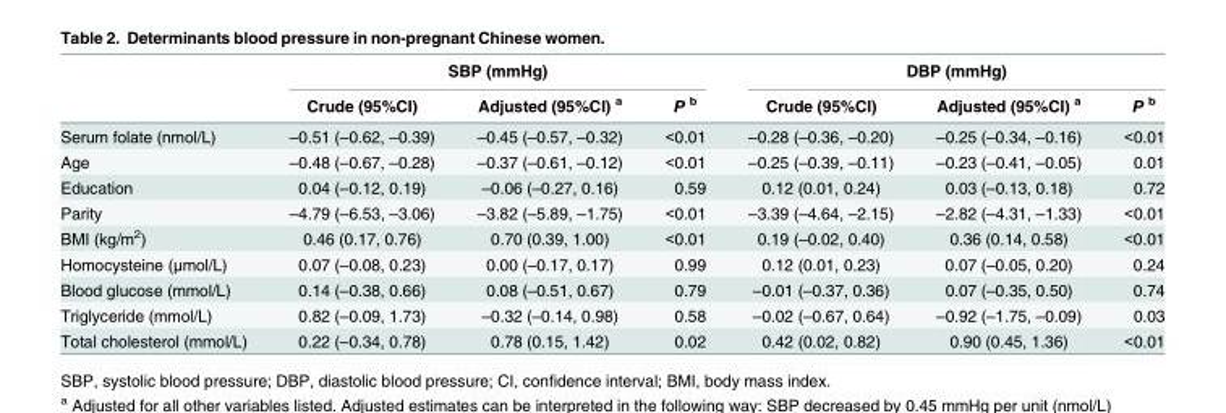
<table><thead><tr><td rowspan="2"></td><td colspan="3">SBP (mmHg)</td><td colspan="3">DBP (mmHg)</td></tr><tr><td>Crude (95%CI)</td><td>Adjusted (95%CI) <sup>a</sup></td><td>P <sup>b</sup></td><td>Crude (95%CI)</td><td>Adjusted (95%CI) <sup>a</sup></td><td>P <sup>b</sup></td></tr></thead><tbody><tr><td>Serum folate (nmol/L)</td><td>–0.51 (–0.62, –0.39)</td><td>–0.45 (–0.57, –0.32)</td><td>&lt;0.01</td><td>–0.28 (–0.36, –0.20)</td><td>–0.25 (–0.34, –0.16)</td><td>&lt;0.01</td></tr><tr><td>Age</td><td>–0.48 (–0.67, –0.28)</td><td>–0.37 (–0.61, –0.12)</td><td>&lt;0.01</td><td>–0.25 (–0.39, –0.11)</td><td>–0.23 (–0.41, –0.05)</td><td>0.01</td></tr><tr><td>Education</td><td>0.04 (–0.12, 0.19)</td><td>–0.06 (–0.27, 0.16)</td><td>0.59</td><td>0.12 (0.01, 0.24)</td><td>0.03 (–0.13, 0.18)</td><td>0.72</td></tr><tr><td>Parity</td><td>–4.79 (–6.53, –3.06)</td><td>–3.82 (–5.89, –1.75)</td><td>&lt;0.01</td><td>–3.39 (–4.64, –2.15)</td><td>–2.82 (–4.31, –1.33)</td><td>&lt;0.01</td></tr><tr><td>BMI (kg/m<sup>2</sup>)</td><td>0.46 (0.17, 0.76)</td><td>0.70 (0.39, 1.00)</td><td>&lt;0.01</td><td>0.19 (–0.02, 0.40)</td><td>0.36 (0.14, 0.58)</td><td>&lt;0.01</td></tr><tr><td>Homocysteine (μmol/L)</td><td>0.07 (–0.08, 0.23)</td><td>0.00 (–0.17, 0.17)</td><td>0.99</td><td>0.12 (0.01, 0.23)</td><td>0.07 (–0.05, 0.20)</td><td>0.24</td></tr><tr><td>Blood glucose (mmol/L)</td><td>0.14 (–0.38, 0.66)</td><td>0.08 (–0.51, 0.67)</td><td>0.79</td><td>–0.01 (–0.37, 0.36)</td><td>0.07 (–0.35, 0.50)</td><td>0.74</td></tr><tr><td>Triglyceride (mmol/L)</td><td>0.82 (–0.09, 1.73)</td><td>–0.32 (–0.14, 0.98)</td><td>0.58</td><td>–0.02 (–0.67, 0.64)</td><td>–0.92 (–1.75, –0.09)</td><td>0.03</td></tr><tr><td>Total cholesterol (mmol/L)</td><td>0.22 (–0.34, 0.78)</td><td>0.78 (0.15, 1.42)</td><td>0.02</td><td>0.42 (0.02, 0.82)</td><td>0.90 (0.45, 1.36)</td><td>&lt;0.01</td></tr></tbody></table>